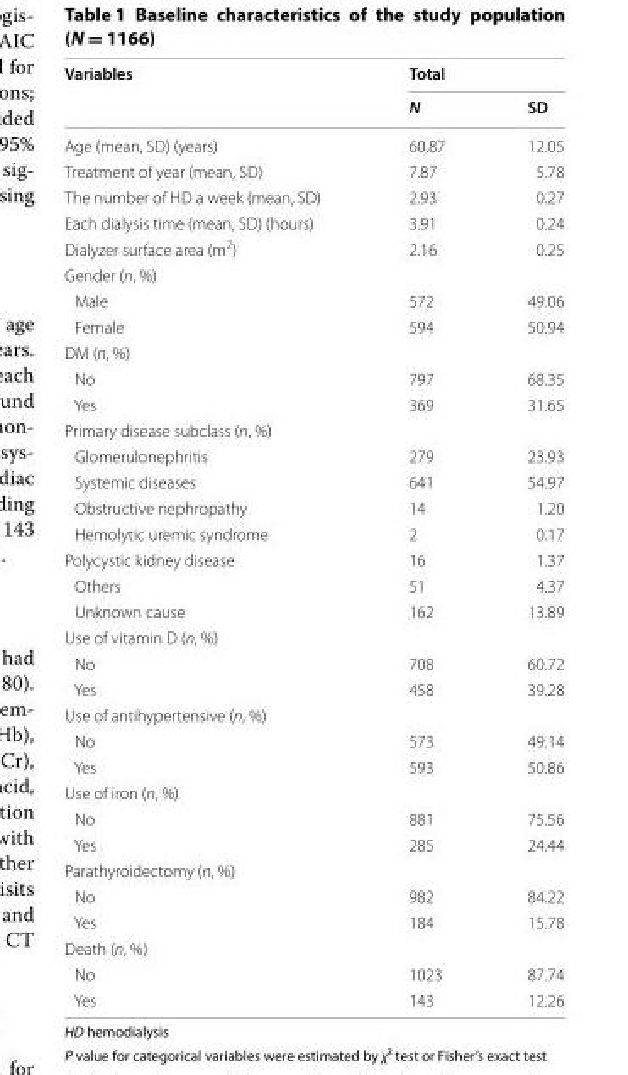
<table><thead><tr><td rowspan="2">Variables</td><td colspan="2">Total</td></tr><tr><td>N</td><td>SD</td></tr></thead><tbody><tr><td>Age (mean, SD) (years)</td><td>60.87</td><td>12.05</td></tr><tr><td>Treatment of year (mean, SD)</td><td>7.87</td><td>5.78</td></tr><tr><td>The number of HD a week (mean, SD)</td><td>2.93</td><td>0.27</td></tr><tr><td>Each dialysis time (mean, SD) (hours)</td><td>3.91</td><td>0.24</td></tr><tr><td>Dialyzer surface area (m<sup>2</sup>)</td><td>2.16</td><td>0.25</td></tr><tr><td colspan="3">Gender (n, %)</td></tr><tr><td>Male</td><td>572</td><td>49.06</td></tr><tr><td>Female</td><td>594</td><td>50.94</td></tr><tr><td colspan="3">DM (n, %)</td></tr><tr><td>No</td><td>797</td><td>68.35</td></tr><tr><td>Yes</td><td>369</td><td>31.65</td></tr><tr><td colspan="3">Primary disease subclass (n, %)</td></tr><tr><td>Glomerulonephritis</td><td>279</td><td>23.93</td></tr><tr><td>Systemic diseases</td><td>641</td><td>54.97</td></tr><tr><td>Obstructive nephropathy</td><td>14</td><td>1.20</td></tr><tr><td>Hemolytic uremic syndrome</td><td>2</td><td>0.17</td></tr><tr><td>Polycystic kidney disease</td><td>16</td><td>1.37</td></tr><tr><td>Others</td><td>51</td><td>4.37</td></tr><tr><td>Unknown cause</td><td>162</td><td>13.89</td></tr><tr><td colspan="3">Use of vitamin D (n, %)</td></tr><tr><td>No</td><td>708</td><td>60.72</td></tr><tr><td>Yes</td><td>458</td><td>39.28</td></tr><tr><td colspan="3">Use of antihypertensive (n, %)</td></tr><tr><td>No</td><td>573</td><td>49.14</td></tr><tr><td>Yes</td><td>593</td><td>50.86</td></tr><tr><td colspan="3">Use of iron (n, %)</td></tr><tr><td>No</td><td>881</td><td>75.56</td></tr><tr><td>Yes</td><td>285</td><td>24.44</td></tr><tr><td colspan="3">Parathyroidectomy (n, %)</td></tr><tr><td>No</td><td>982</td><td>84.22</td></tr><tr><td>Yes</td><td>184</td><td>15.78</td></tr><tr><td colspan="3">Death (n, %)</td></tr><tr><td>No</td><td>1023</td><td>87.74</td></tr><tr><td>Yes</td><td>143</td><td>12.26</td></tr></tbody></table>